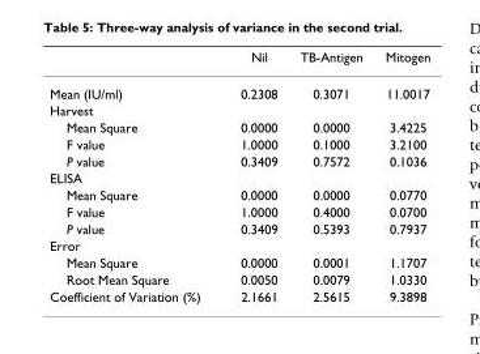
<table><thead><tr><td></td><td>Nil</td><td>TB-Antigen</td><td>Mitogen</td></tr></thead><tbody><tr><td>Mean (IU/ml)</td><td>0.2308</td><td>0.3071</td><td>11.0017</td></tr><tr><td colspan="4">Harvest</td></tr><tr><td>Mean Square</td><td>0.0000</td><td>0.0000</td><td>3.4225</td></tr><tr><td>F value</td><td>1.0000</td><td>0.1000</td><td>3.2100</td></tr><tr><td>P value</td><td>0.3409</td><td>0.7572</td><td>0.1036</td></tr><tr><td colspan="4">ELISA</td></tr><tr><td>Mean Square</td><td>0.0000</td><td>0.0000</td><td>0.0770</td></tr><tr><td>F value</td><td>1.0000</td><td>0.4000</td><td>0.0700</td></tr><tr><td>P value</td><td>0.3409</td><td>0.5393</td><td>0.7937</td></tr><tr><td colspan="4">Error</td></tr><tr><td>Mean Square</td><td>0.0000</td><td>0.0001</td><td>1.1707</td></tr><tr><td>Root Mean Square</td><td>0.0050</td><td>0.0079</td><td>1.0330</td></tr><tr><td>Coefficient of Variation (%)</td><td>2.1661</td><td>2.5615</td><td>9.3898</td></tr></tbody></table>